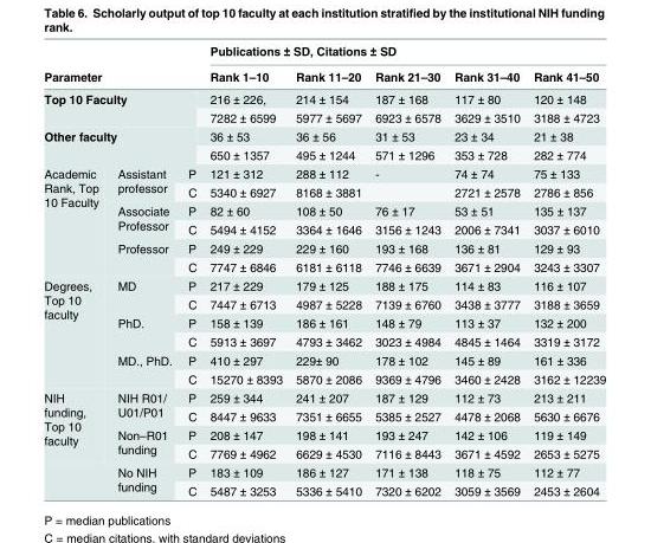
<table><thead><tr><td></td><td></td><td></td><td colspan="5">Publications ± SD, Citations ± SD</td></tr><tr><td colspan="3">Parameter</td><td>Rank 1–10</td><td>Rank 11–20</td><td>Rank 21–30</td><td>Rank 31–40</td><td>Rank 41–50</td></tr></thead><tbody><tr><td rowspan="2" colspan="3">Top 10 Faculty</td><td>216 ± 226,</td><td>214 ± 154</td><td>187 ± 168</td><td>117 ± 80</td><td>120 ± 148</td></tr><tr><td>7282 ± 6599</td><td>5977 ± 5697</td><td>6923 ± 6578</td><td>3629 ± 3510</td><td>3188 ± 4723</td></tr><tr><td rowspan="2" colspan="3">Other faculty</td><td>36 ± 53</td><td>36 ± 56</td><td>31 ± 53</td><td>23 ± 34</td><td>21 ± 38</td></tr><tr><td>650 ± 1357</td><td>495 ± 1244</td><td>571 ± 1296</td><td>353 ± 728</td><td>282 ± 774</td></tr><tr><td rowspan="6">Academic Rank, Top 10 Faculty</td><td rowspan="2">Assistant professor</td><td>P</td><td>121 ± 312</td><td>288 ± 112</td><td>-</td><td>74 ± 74</td><td>75 ± 133</td></tr><tr><td>C</td><td>5340 ± 6927</td><td>8168 ± 3881</td><td></td><td>2721 ± 2578</td><td>2786 ± 856</td></tr><tr><td rowspan="2">Associate Professor</td><td>P</td><td>82 ± 60</td><td>108 ± 50</td><td>76 ± 17</td><td>53 ± 51</td><td>135 ± 137</td></tr><tr><td>C</td><td>5494 ± 4152</td><td>3364 ± 1646</td><td>3156 ± 1243</td><td>2006 ± 7341</td><td>3037 ± 6010</td></tr><tr><td rowspan="2">Professor</td><td>P</td><td>249 ± 229</td><td>229 ± 160</td><td>193 ± 168</td><td>136 ± 81</td><td>129 ± 93</td></tr><tr><td>C</td><td>7747 ± 6846</td><td>6181 ± 6118</td><td>7746 ± 6639</td><td>3671 ± 2904</td><td>3243 ± 3307</td></tr><tr><td rowspan="6">Degrees, Top 10 faculty</td><td rowspan="2">MD</td><td>P</td><td>217 ± 229</td><td>179 ± 125</td><td>188 ± 175</td><td>114 ± 83</td><td>116 ± 107</td></tr><tr><td>C</td><td>7447 ± 6713</td><td>4987 ± 5228</td><td>7139 ± 6760</td><td>3438 ± 3777</td><td>3188 ± 3659</td></tr><tr><td rowspan="2">PhD.</td><td>P</td><td>158 ± 139</td><td>186 ± 161</td><td>148 ± 79</td><td>113 ± 37</td><td>132 ± 200</td></tr><tr><td>C</td><td>5913 ± 3697</td><td>4793 ± 3462</td><td>3023 ± 4984</td><td>4845 ± 1464</td><td>3319 ± 3172</td></tr><tr><td rowspan="2">MD., PhD.</td><td>P</td><td>410 ± 297</td><td>229± 90</td><td>178 ± 102</td><td>145 ± 89</td><td>161 ± 336</td></tr><tr><td>C</td><td>15270 ± 8393</td><td>5870 ± 2086</td><td>9369 ± 4796</td><td>3460 ± 2428</td><td>3162 ± 12239</td></tr><tr><td rowspan="6">NIH funding, Top 10 faculty</td><td rowspan="2">NIH R01/ U01/P01</td><td>P</td><td>259 ± 344</td><td>241 ± 207</td><td>187 ± 129</td><td>112 ± 73</td><td>213 ± 211</td></tr><tr><td>C</td><td>8447 ± 9633</td><td>7351 ± 6655</td><td>5385 ± 2527</td><td>4478 ± 2068</td><td>5630 ± 6676</td></tr><tr><td rowspan="2">Non–R01 funding</td><td>P</td><td>208 ± 147</td><td>198 ± 141</td><td>193 ± 247</td><td>142 ± 106</td><td>119 ± 149</td></tr><tr><td>C</td><td>7769 ± 4962</td><td>6629 ± 4530</td><td>7116 ± 8443</td><td>3671 ± 4592</td><td>2653 ± 5275</td></tr><tr><td rowspan="2">No NIH funding</td><td>P</td><td>183 ± 109</td><td>186 ± 127</td><td>171 ± 138</td><td>118 ± 75</td><td>112 ± 77</td></tr><tr><td>C</td><td>5487 ± 3253</td><td>5336 ± 5410</td><td>7320 ± 6202</td><td>3059 ± 3569</td><td>2453 ± 2604</td></tr></tbody></table>